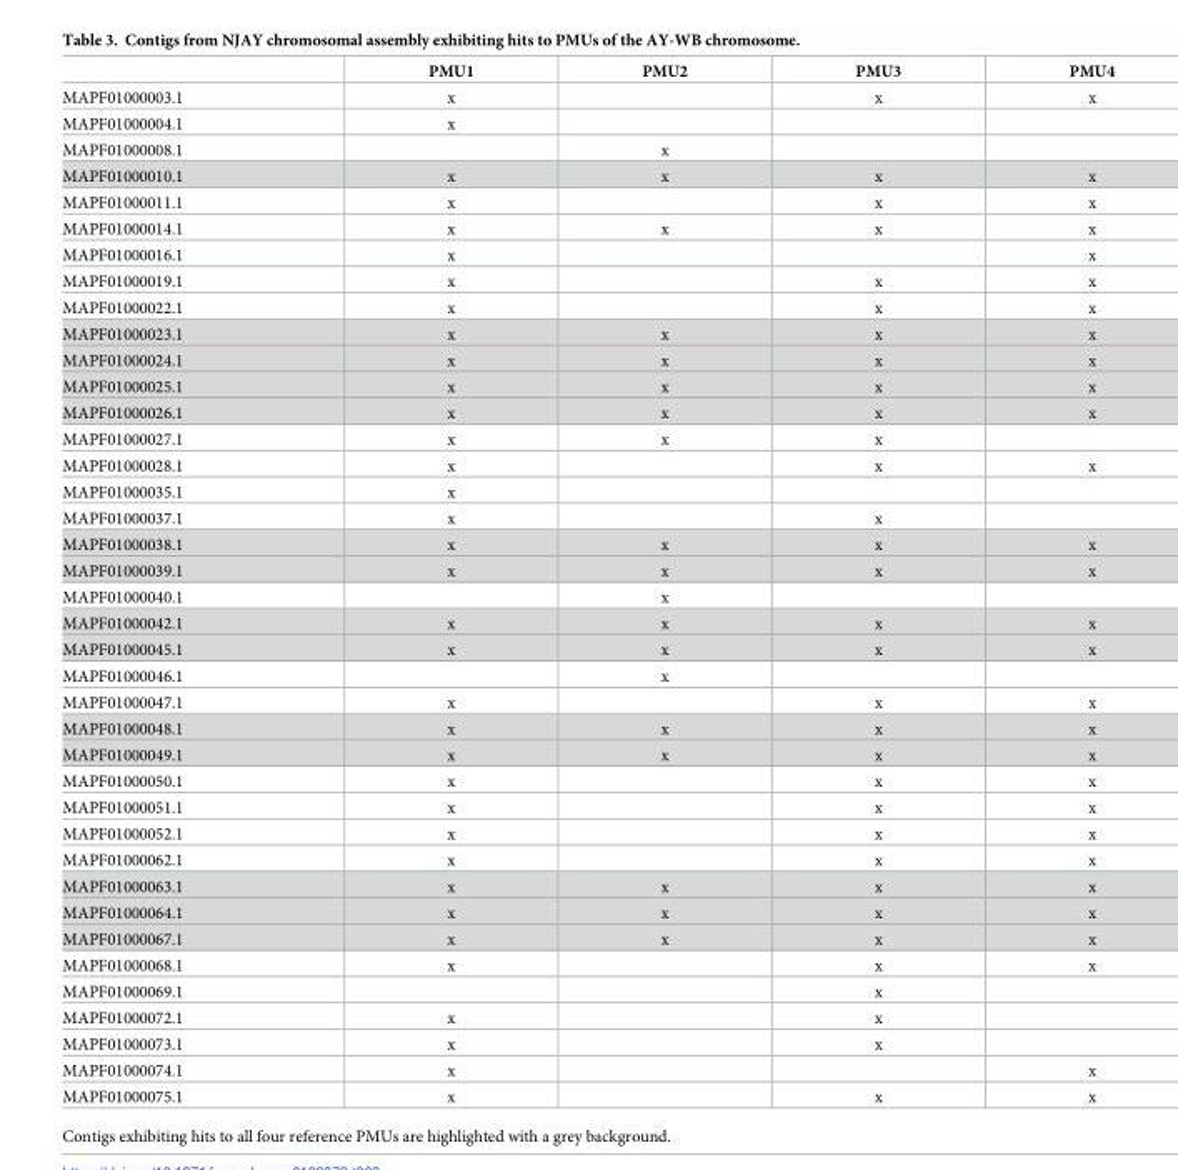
<table><thead><tr><td></td><td>PMU1</td><td>PMU2</td><td>PMU3</td><td>PMU4</td></tr></thead><tbody><tr><td>MAPF01000003.1</td><td>x</td><td></td><td>x</td><td>x</td></tr><tr><td>MAPF01000004.1</td><td>x</td><td></td><td></td><td></td></tr><tr><td>MAPF01000008.1</td><td></td><td>x</td><td></td><td></td></tr><tr><td>MAPF01000010.1</td><td>x</td><td>x</td><td>x</td><td>x</td></tr><tr><td>MAPF01000011.1</td><td>x</td><td></td><td>x</td><td>x</td></tr><tr><td>MAPF01000014.1</td><td>x</td><td>x</td><td>x</td><td>x</td></tr><tr><td>MAPF01000016.1</td><td>x</td><td></td><td></td><td>x</td></tr><tr><td>MAPF01000019.1</td><td>x</td><td></td><td>x</td><td>x</td></tr><tr><td>MAPF01000022.1</td><td>x</td><td></td><td>x</td><td>x</td></tr><tr><td>MAPF01000023.1</td><td>x</td><td>x</td><td>x</td><td>x</td></tr><tr><td>MAPF01000024.1</td><td>x</td><td>x</td><td>x</td><td>x</td></tr><tr><td>MAPF01000025.1</td><td>x</td><td>x</td><td>x</td><td>x</td></tr><tr><td>MAPF01000026.1</td><td>x</td><td>x</td><td>x</td><td>x</td></tr><tr><td>MAPF01000027.1</td><td>x</td><td>x</td><td>x</td><td></td></tr><tr><td>MAPF01000028.1</td><td>x</td><td></td><td>x</td><td>x</td></tr><tr><td>MAPF01000035.1</td><td>x</td><td></td><td></td><td></td></tr><tr><td>MAPF01000037.1</td><td>x</td><td></td><td>x</td><td></td></tr><tr><td>MAPF01000038.1</td><td>x</td><td>x</td><td>x</td><td>x</td></tr><tr><td>MAPF01000039.1</td><td>x</td><td>x</td><td>x</td><td>x</td></tr><tr><td>MAPF01000040.1</td><td></td><td>x</td><td></td><td></td></tr><tr><td>MAPF01000042.1</td><td>x</td><td>x</td><td>x</td><td>x</td></tr><tr><td>MAPF01000045.1</td><td>x</td><td>x</td><td>x</td><td>x</td></tr><tr><td>MAPF01000046.1</td><td></td><td>x</td><td></td><td></td></tr><tr><td>MAPF01000047.1</td><td>x</td><td></td><td>x</td><td>x</td></tr><tr><td>MAPF01000048.1</td><td>x</td><td>x</td><td>x</td><td>x</td></tr><tr><td>MAPF01000049.1</td><td>x</td><td>x</td><td>x</td><td>x</td></tr><tr><td>MAPF01000050.1</td><td>x</td><td></td><td>x</td><td>x</td></tr><tr><td>MAPF01000051.1</td><td>x</td><td></td><td>x</td><td>x</td></tr><tr><td>MAPF01000052.1</td><td>x</td><td></td><td>x</td><td>x</td></tr><tr><td>MAPF01000062.1</td><td>x</td><td></td><td>x</td><td>x</td></tr><tr><td>MAPF01000063.1</td><td>x</td><td>x</td><td>x</td><td>x</td></tr><tr><td>MAPF01000064.1</td><td>x</td><td>x</td><td>x</td><td>x</td></tr><tr><td>MAPF01000067.1</td><td>x</td><td>x</td><td>x</td><td>x</td></tr><tr><td>MAPF01000068.1</td><td>x</td><td></td><td>x</td><td>x</td></tr><tr><td>MAPF01000069.1</td><td></td><td></td><td>x</td><td></td></tr><tr><td>MAPF01000072.1</td><td>x</td><td></td><td>x</td><td></td></tr><tr><td>MAPF01000073.1</td><td>x</td><td></td><td>x</td><td></td></tr><tr><td>MAPF01000074.1</td><td>x</td><td></td><td></td><td>x</td></tr><tr><td>MAPF01000075.1</td><td>x</td><td></td><td>x</td><td>x</td></tr></tbody></table>